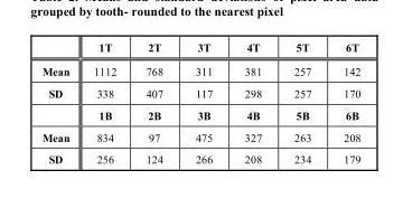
<table><thead><tr><td></td><td>1T</td><td>2T</td><td>3T</td><td>4T</td><td>5T</td><td>6T</td></tr></thead><tbody><tr><td>Mean</td><td>1112</td><td>768</td><td>311</td><td>381</td><td>257</td><td>142</td></tr><tr><td rowspan="2">SD</td><td>338</td><td>407</td><td>117</td><td>298</td><td>257</td><td>170</td></tr><tr><td>1B</td><td>2B</td><td>3B</td><td>4B</td><td>5B</td><td>6B</td></tr><tr><td>Mean</td><td>834</td><td>97</td><td>475</td><td>327</td><td>263</td><td>208</td></tr><tr><td>SD</td><td>256</td><td>124</td><td>266</td><td>208</td><td>234</td><td>179</td></tr></tbody></table>